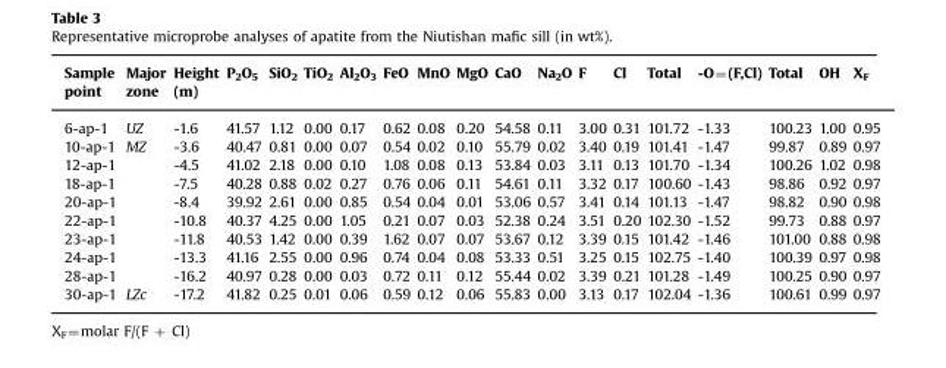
<table><thead><tr><td>Sample point</td><td>Major zone</td><td>Height (m)</td><td>P<sub>2</sub>O<sub>5</sub></td><td>SiO<sub>2</sub></td><td>TiO<sub>2</sub></td><td>Al<sub>2</sub>O<sub>3</sub></td><td>FeO</td><td>MnO</td><td>MgO</td><td>CaO</td><td>Na<sub>2</sub>O</td><td>F</td><td>Cl</td><td>Total</td><td>-O=(F,Cl)</td><td>Total</td><td>OH</td><td>X<sub>F</sub></td></tr></thead><tbody><tr><td>6-ap-1</td><td>UZ</td><td>-1.6</td><td>41.57</td><td>1.12</td><td>0.00</td><td>0.17</td><td>0.62</td><td>0.08</td><td>0.20</td><td>54.58</td><td>0.11</td><td>3.00</td><td>0.31</td><td>101.72</td><td>-1.33</td><td>100.23</td><td>1.00</td><td>0.95</td></tr><tr><td>10-ap-1</td><td rowspan="8">MZ</td><td>-3.6</td><td>40.47</td><td>0.81</td><td>0.00</td><td>0.07</td><td>0.54</td><td>0.02</td><td>0.10</td><td>55.79</td><td>0.02</td><td>3.40</td><td>0.19</td><td>101.41</td><td>-1.47</td><td>99.87</td><td>0.89</td><td>0.97</td></tr><tr><td>12-ap-1</td><td>-4.5</td><td>41.02</td><td>2.18</td><td>0.00</td><td>0.10</td><td>1.08</td><td>0.08</td><td>0.13</td><td>53.84</td><td>0.03</td><td>3.11</td><td>0.13</td><td>101.70</td><td>-1.34</td><td>100.26</td><td>1.02</td><td>0.98</td></tr><tr><td>18-ap-1</td><td>-7.5</td><td>40.28</td><td>0.88</td><td>0.02</td><td>0.27</td><td>0.76</td><td>0.06</td><td>0.11</td><td>54.61</td><td>0.11</td><td>3.32</td><td>0.17</td><td>100.60</td><td>-1.43</td><td>98.86</td><td>0.92</td><td>0.97</td></tr><tr><td>20-ap-1</td><td>-8.4</td><td>39.92</td><td>2.61</td><td>0.00</td><td>0.85</td><td>0.54</td><td>0.04</td><td>0.01</td><td>53.06</td><td>0.57</td><td>3.41</td><td>0.14</td><td>101.13</td><td>-1.47</td><td>98.82</td><td>0.90</td><td>0.98</td></tr><tr><td>22-ap-1</td><td>-10.8</td><td>40.37</td><td>4.25</td><td>0.00</td><td>1.05</td><td>0.21</td><td>0.07</td><td>0.03</td><td>52.38</td><td>0.24</td><td>3.51</td><td>0.20</td><td>102.30</td><td>-1.52</td><td>99.73</td><td>0.88</td><td>0.97</td></tr><tr><td>23-ap-1</td><td>-11.8</td><td>40.53</td><td>1.42</td><td>0.00</td><td>0.39</td><td>1.62</td><td>0.07</td><td>0.07</td><td>53.67</td><td>0.12</td><td>3.39</td><td>0.15</td><td>101.42</td><td>-1.46</td><td>101.00</td><td>0.88</td><td>0.98</td></tr><tr><td>24-ap-1</td><td>-13.3</td><td>41.16</td><td>2.55</td><td>0.00</td><td>0.96</td><td>0.74</td><td>0.04</td><td>0.08</td><td>53.33</td><td>0.51</td><td>3.25</td><td>0.15</td><td>102.75</td><td>-1.40</td><td>100.39</td><td>0.97</td><td>0.98</td></tr><tr><td>28-ap-1</td><td>-16.2</td><td>40.97</td><td>0.28</td><td>0.00</td><td>0.03</td><td>0.72</td><td>0.11</td><td>0.12</td><td>55.44</td><td>0.02</td><td>3.39</td><td>0.21</td><td>101.28</td><td>-1.49</td><td>100.25</td><td>0.90</td><td>0.97</td></tr><tr><td>30-ap-1</td><td>LZc</td><td>-17.2</td><td>41.82</td><td>0.25</td><td>0.01</td><td>0.06</td><td>0.59</td><td>0.12</td><td>0.06</td><td>55.83</td><td>0.00</td><td>3.13</td><td>0.17</td><td>102.04</td><td>-1.36</td><td>100.61</td><td>0.99</td><td>0.97</td></tr></tbody></table>